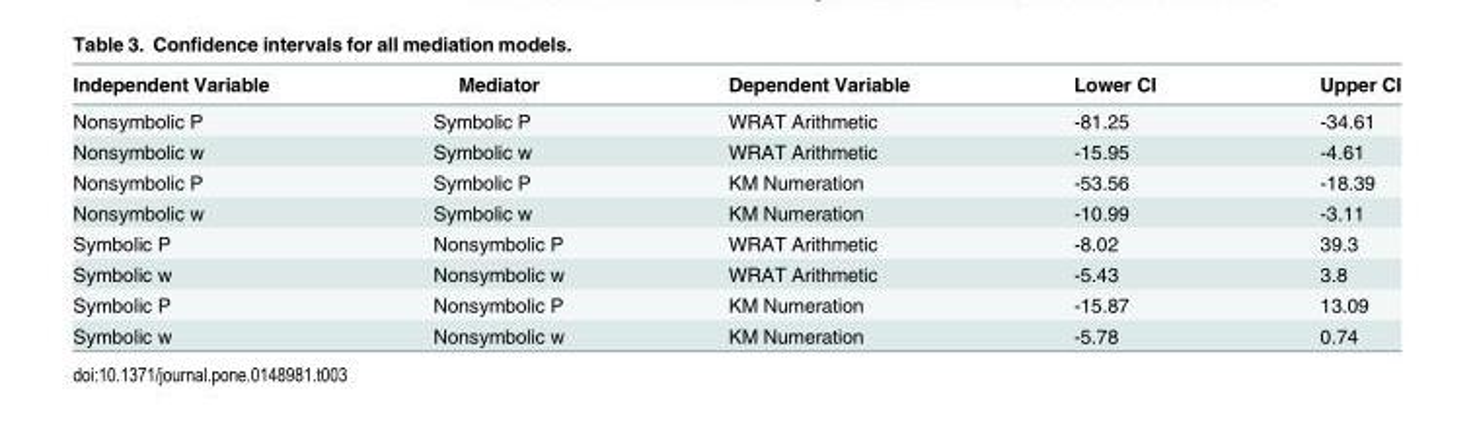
<table><thead><tr><td>Independent Variable</td><td>Mediator</td><td>Dependent Variable</td><td>Lower CI</td><td>Upper CI</td></tr></thead><tbody><tr><td>Nonsymbolic P</td><td>Symbolic P</td><td>WRAT Arithmetic</td><td>-81.25</td><td>-34.61</td></tr><tr><td>Nonsymbolic w</td><td>Symbolic w</td><td>WRAT Arithmetic</td><td>-15.95</td><td>-4.61</td></tr><tr><td>Nonsymbolic P</td><td>Symbolic P</td><td>KM Numeration</td><td>-53.56</td><td>-18.39</td></tr><tr><td>Nonsymbolic w</td><td>Symbolic w</td><td>KM Numeration</td><td>-10.99</td><td>-3.11</td></tr><tr><td>Symbolic P</td><td>Nonsymbolic P</td><td>WRAT Arithmetic</td><td>-8.02</td><td>39.3</td></tr><tr><td>Symbolic w</td><td>Nonsymbolic w</td><td>WRAT Arithmetic</td><td>-5.43</td><td>3.8</td></tr><tr><td>Symbolic P</td><td>Nonsymbolic P</td><td>KM Numeration</td><td>-15.87</td><td>13.09</td></tr><tr><td>Symbolic w</td><td>Nonsymbolic w</td><td>KM Numeration</td><td>-5.78</td><td>0.74</td></tr></tbody></table>